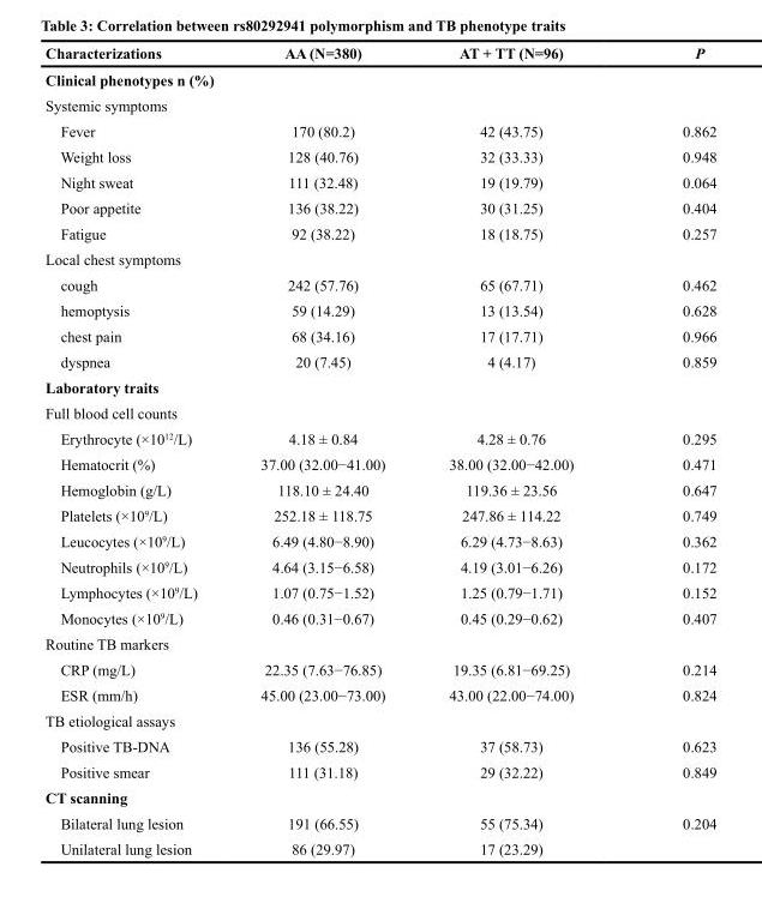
<table><thead><tr><td>Characterizations</td><td>AA (N=380)</td><td>AT + TT (N=96)</td><td>P</td></tr></thead><tbody><tr><td colspan="4">Clinical phenotypes n (%)</td></tr><tr><td colspan="4">Systemic symptoms</td></tr><tr><td>Fever</td><td>170 (80.2)</td><td>42 (43.75)</td><td>0.862</td></tr><tr><td>Weight loss</td><td>128 (40.76)</td><td>32 (33.33)</td><td>0.948</td></tr><tr><td>Night sweat</td><td>111 (32.48)</td><td>19 (19.79)</td><td>0.064</td></tr><tr><td>Poor appetite</td><td>136 (38.22)</td><td>30 (31.25)</td><td>0.404</td></tr><tr><td>Fatigue</td><td>92 (38.22)</td><td>18 (18.75)</td><td>0.257</td></tr><tr><td colspan="4">Local chest symptoms</td></tr><tr><td>cough</td><td>242 (57.76)</td><td>65 (67.71)</td><td>0.462</td></tr><tr><td>hemoptysis</td><td>59 (14.29)</td><td>13 (13.54)</td><td>0.628</td></tr><tr><td>chest pain</td><td>68 (34.16)</td><td>17 (17.71)</td><td>0.966</td></tr><tr><td>dyspnea</td><td>20 (7.45)</td><td>4 (4.17)</td><td>0.859</td></tr><tr><td colspan="4">Laboratory traits</td></tr><tr><td colspan="4">Full blood cell counts</td></tr><tr><td>Erythrocyte (×10<sup>12</sup>/L)</td><td>4.18 ± 0.84</td><td>4.28 ± 0.76</td><td>0.295</td></tr><tr><td>Hematocrit (%)</td><td>37.00 (32.00−41.00)</td><td>38.00 (32.00−42.00)</td><td>0.471</td></tr><tr><td>Hemoglobin (g/L)</td><td>118.10 ± 24.40</td><td>119.36 ± 23.56</td><td>0.647</td></tr><tr><td>Platelets (×10<sup>9</sup>/L)</td><td>252.18 ± 118.75</td><td>247.86 ± 114.22</td><td>0.749</td></tr><tr><td>Leucocytes (×10<sup>9</sup>/L)</td><td>6.49 (4.80−8.90)</td><td>6.29 (4.73−8.63)</td><td>0.362</td></tr><tr><td>Neutrophils (×10<sup>9</sup>/L)</td><td>4.64 (3.15−6.58)</td><td>4.19 (3.01−6.26)</td><td>0.172</td></tr><tr><td>Lymphocytes (×10<sup>9</sup>/L)</td><td>1.07 (0.75−1.52)</td><td>1.25 (0.79−1.71)</td><td>0.152</td></tr><tr><td>Monocytes (×10<sup>9</sup>/L)</td><td>0.46 (0.31−0.67)</td><td>0.45 (0.29−0.62)</td><td>0.407</td></tr><tr><td colspan="4">Routine TB markers</td></tr><tr><td>CRP (mg/L)</td><td>22.35 (7.63−76.85)</td><td>19.35 (6.81−69.25)</td><td>0.214</td></tr><tr><td>ESR (mm/h)</td><td>45.00 (23.00−73.00)</td><td>43.00 (22.00−74.00)</td><td>0.824</td></tr><tr><td colspan="4">TB etiological assays</td></tr><tr><td>Positive TB-DNA</td><td>136 (55.28)</td><td>37 (58.73)</td><td>0.623</td></tr><tr><td>Positive smear</td><td>111 (31.18)</td><td>29 (32.22)</td><td>0.849</td></tr><tr><td colspan="4">CT scanning</td></tr><tr><td>Bilateral lung lesion</td><td>191 (66.55)</td><td>55 (75.34)</td><td>0.204</td></tr><tr><td>Unilateral lung lesion</td><td>86 (29.97)</td><td>17 (23.29)</td><td></td></tr></tbody></table>